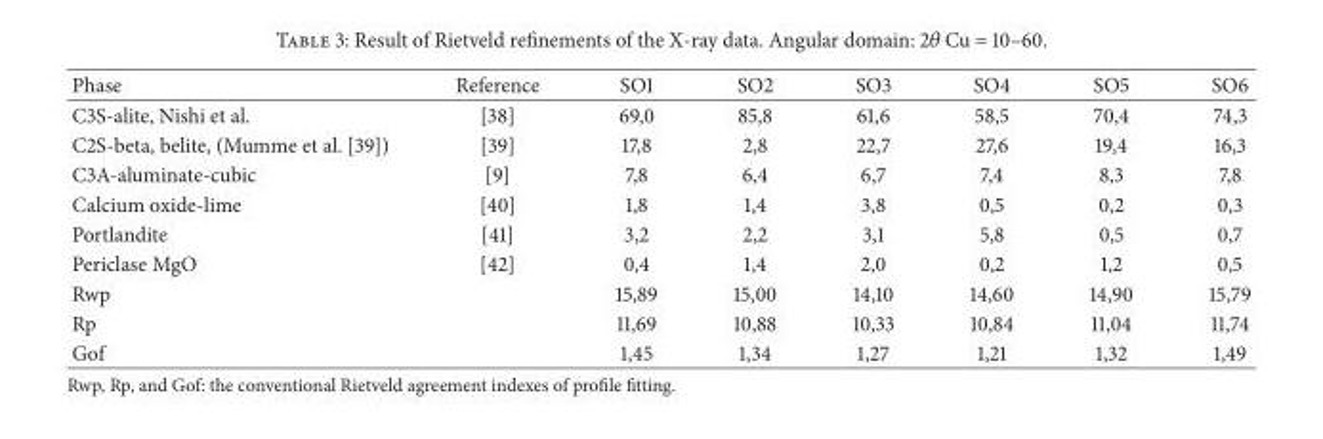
<table><thead><tr><td>Phase</td><td>Reference</td><td>SO1</td><td>SO2</td><td>SO3</td><td>SO4</td><td>SO5</td><td>SO6</td></tr></thead><tbody><tr><td>C3S-alite, Nishi et al.</td><td>[38]</td><td>69,0</td><td>85,8</td><td>61,6</td><td>58,5</td><td>70,4</td><td>74,3</td></tr><tr><td>C2S-beta, belite, (Mumme et al. [39])</td><td>[39]</td><td>17,8</td><td>2,8</td><td>22,7</td><td>27,6</td><td>19,4</td><td>16,3</td></tr><tr><td>C3A-aluminate-cubic</td><td>[9]</td><td>7,8</td><td>6,4</td><td>6,7</td><td>7,4</td><td>8,3</td><td>7,8</td></tr><tr><td>Calcium oxide-lime</td><td>[40]</td><td>1,8</td><td>1,4</td><td>3,8</td><td>0,5</td><td>0,2</td><td>0,3</td></tr><tr><td>Portlandite</td><td>[41]</td><td>3,2</td><td>2,2</td><td>3,1</td><td>5,8</td><td>0,5</td><td>0,7</td></tr><tr><td>Periclase MgO</td><td>[42]</td><td>0,4</td><td>1,4</td><td>2,0</td><td>0,2</td><td>1,2</td><td>0,5</td></tr><tr><td>Rwp</td><td></td><td>15,89</td><td>15,00</td><td>14,10</td><td>14,60</td><td>14,90</td><td>15,79</td></tr><tr><td>Rp</td><td></td><td>11,69</td><td>10,88</td><td>10,33</td><td>10,84</td><td>11,04</td><td>11,74</td></tr><tr><td>Gof</td><td></td><td>1,45</td><td>1,34</td><td>1,27</td><td>1,21</td><td>1,32</td><td>1,49</td></tr></tbody></table>